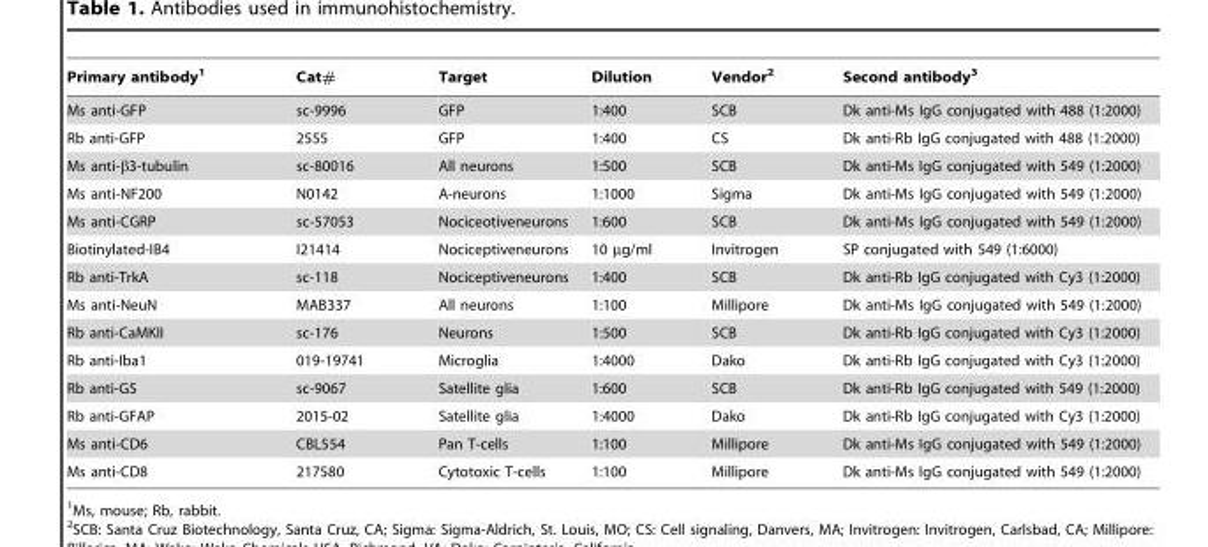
<table><thead><tr><td>Primary antibody<sup>1</sup></td><td>Cat#</td><td>Target</td><td>Dilution</td><td>Vendor<sup>2</sup></td><td>Second antibody<sup>3</sup></td></tr></thead><tbody><tr><td>Ms anti-GFP</td><td>sc-9996</td><td>GFP</td><td>1:400</td><td>SCB</td><td>Dk anti-Ms IgG conjugated with 488 (1:2000)</td></tr><tr><td>Rb anti-GFP</td><td>2555</td><td>GFP</td><td>1:400</td><td>CS</td><td>Dk anti-Rb IgG conjugated with 488 (1:2000)</td></tr><tr><td>Ms anti-β3-tubulin</td><td>sc-80016</td><td>All neurons</td><td>1:500</td><td>SCB</td><td>Dk anti-Ms IgG conjugated with 549 (1:2000)</td></tr><tr><td>Ms anti-NF200</td><td>N0142</td><td>A-neurons</td><td>1:1000</td><td>Sigma</td><td>Dk anti-Ms IgG conjugated with 549 (1:2000)</td></tr><tr><td>Ms anti-CGRP</td><td>sc-57053</td><td>Nociceotiveneurons</td><td>1:600</td><td>SCB</td><td>Dk anti-Ms IgG conjugated with 549 (1:2000)</td></tr><tr><td>Biotinylated-IB4</td><td>I21414</td><td>Nociceptiveneurons</td><td>10 µg/ml</td><td>Invitrogen</td><td>SP conjugated with 549 (1:6000)</td></tr><tr><td>Rb anti-TrkA</td><td>sc-118</td><td>Nociceptiveneurons</td><td>1:400</td><td>SCB</td><td>Dk anti-Rb IgG conjugated with Cy3 (1:2000)</td></tr><tr><td>Ms anti-NeuN</td><td>MAB337</td><td>All neurons</td><td>1:100</td><td>Millipore</td><td>Dk anti-Ms IgG conjugated with 549 (1:2000)</td></tr><tr><td>Rb anti-CaMKII</td><td>sc-176</td><td>Neurons</td><td>1:500</td><td>SCB</td><td>Dk anti-Rb IgG conjugated with Cy3 (1:2000)</td></tr><tr><td>Rb anti-Iba1</td><td>019-19741</td><td>Microglia</td><td>1:4000</td><td>Dako</td><td>Dk anti-Rb IgG conjugated with Cy3 (1:2000)</td></tr><tr><td>Rb anti-GS</td><td>sc-9067</td><td>Satellite glia</td><td>1:600</td><td>SCB</td><td>Dk anti-Rb IgG conjugated with 549 (1:2000)</td></tr><tr><td>Rb anti-GFAP</td><td>2015-02</td><td>Satellite glia</td><td>1:4000</td><td>Dako</td><td>Dk anti-Rb IgG conjugated with Cy3 (1:2000)</td></tr><tr><td>Ms anti-CD6</td><td>CBL554</td><td>Pan T-cells</td><td>1:100</td><td>Millipore</td><td>Dk anti-Ms IgG conjugated with 549 (1:2000)</td></tr><tr><td>Ms anti-CD8</td><td>217580</td><td>Cytotoxic T-cells</td><td>1:100</td><td>Millipore</td><td>Dk anti-Ms IgG conjugated with 549 (1:2000)</td></tr></tbody></table>